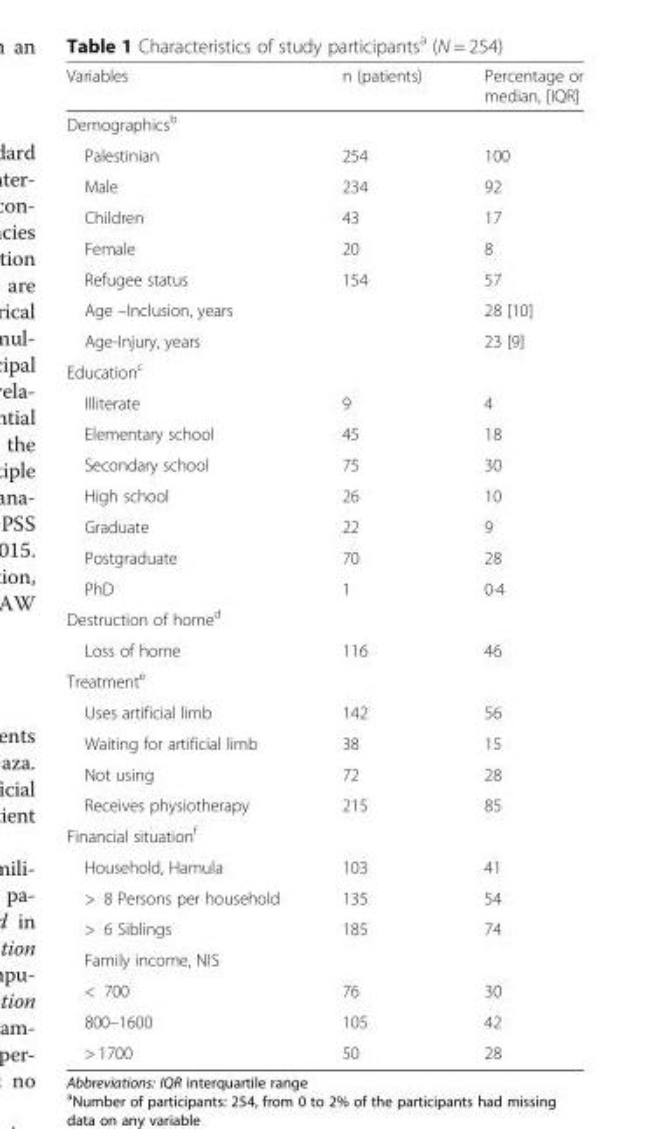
<table><thead><tr><td>Variables</td><td>n (patients)</td><td>Percentage or median, [IQR]</td></tr></thead><tbody><tr><td colspan="3">Demographics<sup>b</sup></td></tr><tr><td>Palestinian</td><td>254</td><td>100</td></tr><tr><td>Male</td><td>234</td><td>92</td></tr><tr><td>Children</td><td>43</td><td>17</td></tr><tr><td>Female</td><td>20</td><td>8</td></tr><tr><td>Refugee status</td><td>154</td><td>57</td></tr><tr><td>Age –Inclusion, years</td><td></td><td>28 [10]</td></tr><tr><td>Age-Injury, years</td><td></td><td>23 [9]</td></tr><tr><td colspan="3">Education<sup>c</sup></td></tr><tr><td>Illiterate</td><td>9</td><td>4</td></tr><tr><td>Elementary school</td><td>45</td><td>18</td></tr><tr><td>Secondary school</td><td>75</td><td>30</td></tr><tr><td>High school</td><td>26</td><td>10</td></tr><tr><td>Graduate</td><td>22</td><td>9</td></tr><tr><td>Postgraduate</td><td>70</td><td>28</td></tr><tr><td>PhD</td><td>1</td><td>0·4</td></tr><tr><td colspan="3">Destruction of home<sup>d</sup></td></tr><tr><td>Loss of home</td><td>116</td><td>46</td></tr><tr><td colspan="3">Treatment<sup>e</sup></td></tr><tr><td>Uses artificial limb</td><td>142</td><td>56</td></tr><tr><td>Waiting for artificial limb</td><td>38</td><td>15</td></tr><tr><td>Not using</td><td>72</td><td>28</td></tr><tr><td>Receives physiotherapy</td><td>215</td><td>85</td></tr><tr><td colspan="3">Financial situation<sup>f</sup></td></tr><tr><td>Household, Hamula</td><td>103</td><td>41</td></tr><tr><td>&gt; 8 Persons per household</td><td>135</td><td>54</td></tr><tr><td>&gt; 6 Siblings</td><td>185</td><td>74</td></tr><tr><td colspan="3">Family income, NIS</td></tr><tr><td>&lt; 700</td><td>76</td><td>30</td></tr><tr><td>800–1600</td><td>105</td><td>42</td></tr><tr><td>&gt; 1700</td><td>50</td><td>28</td></tr></tbody></table>